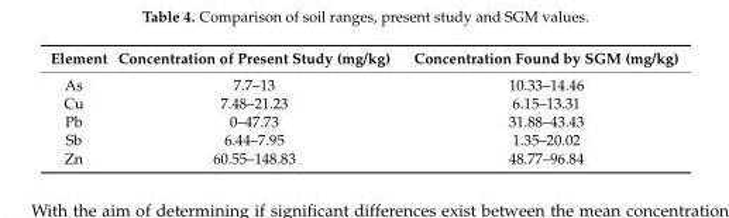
<table><thead><tr><td>Element</td><td>Concentration of Present Study (mg/kg)</td><td>Concentration Found by SGM (mg/kg)</td></tr></thead><tbody><tr><td>As</td><td>7.7–13</td><td>10.33–14.46</td></tr><tr><td>Cu</td><td>7.48–21.23</td><td>6.15–13.31</td></tr><tr><td>Pb</td><td>0–47.73</td><td>31.88–43.43</td></tr><tr><td>Sb</td><td>6.44–7.95</td><td>1.35–20.02</td></tr><tr><td>Zn</td><td>60.55–148.83</td><td>48.77–96.84</td></tr></tbody></table>